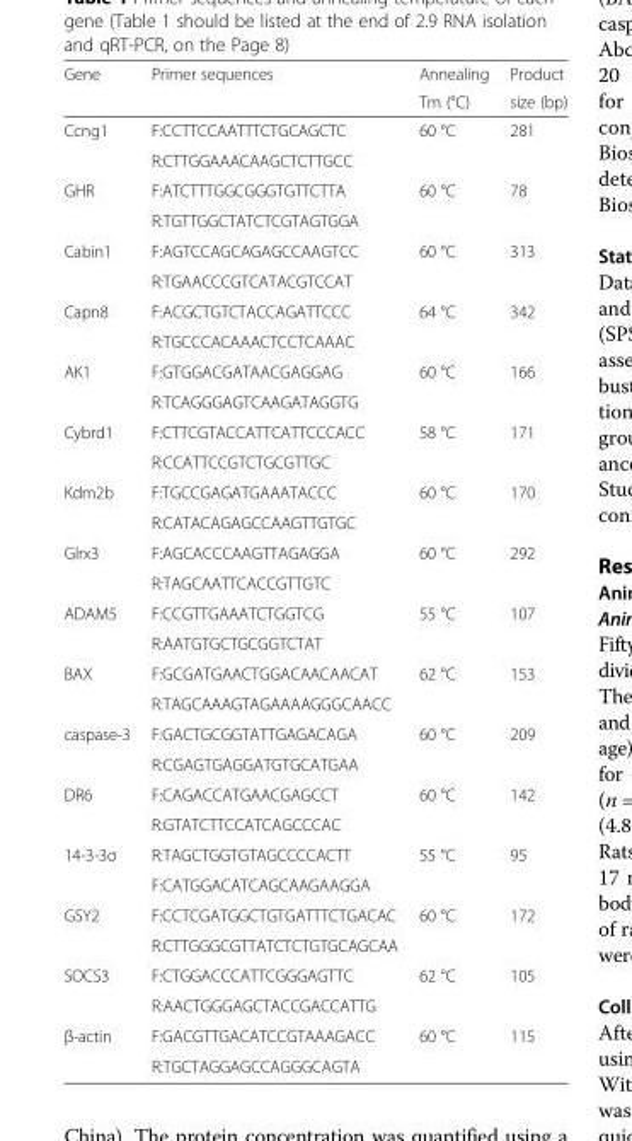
<table><thead><tr><td rowspan="2">Gene</td><td rowspan="2">Primer sequences</td><td rowspan="2">Annealing Tm (°C)</td><td rowspan="2">Product size (bp)</td></tr><tr></tr></thead><tbody><tr><td rowspan="2">Ccng1</td><td>F:CCTTCCAATTTCTGCAGCTC</td><td rowspan="2">60 °C</td><td rowspan="2">281</td></tr><tr><td>R:CTTGGAAACAAGCTCTTGCC</td></tr><tr><td rowspan="2">GHR</td><td>F:ATCTTTGGCGGGTGTTCTTA</td><td rowspan="2">60 °C</td><td rowspan="2">78</td></tr><tr><td>R:TGTTGGCTATCTCGTAGTGGA</td></tr><tr><td rowspan="2">Cabin1</td><td>F:AGTCCAGCAGAGCCAAGTCC</td><td rowspan="2">60 °C</td><td rowspan="2">313</td></tr><tr><td>R:TGAACCCGTCATACGTCCAT</td></tr><tr><td rowspan="2">Capn8</td><td>F:ACGCTGTCTACCAGATTCCC</td><td rowspan="2">64 °C</td><td rowspan="2">342</td></tr><tr><td>R:TGCCCACAAACTCCTCAAAC</td></tr><tr><td rowspan="2">AK1</td><td>F:GTGGACGATAACGAGGAG</td><td rowspan="2">60 °C</td><td rowspan="2">166</td></tr><tr><td>R:TCAGGGAGTCAAGATAGGTG</td></tr><tr><td rowspan="2">Cybrd1</td><td>F:CTTCGTACCATTCATTCCCACC</td><td rowspan="2">58 °C</td><td rowspan="2">171</td></tr><tr><td>R:CCATTCCGTCTGCGTTGC</td></tr><tr><td rowspan="2">Kdm2b</td><td>F:TGCCGAGATGAAATACCC</td><td rowspan="2">60 °C</td><td rowspan="2">170</td></tr><tr><td>R:CATACAGAGCCAAGTTGTGC</td></tr><tr><td rowspan="2">Glrx3</td><td>F:AGCACCCAAGTTAGAGGA</td><td rowspan="2">60 °C</td><td rowspan="2">292</td></tr><tr><td>R:TAGCAATTCACCGTTGTC</td></tr><tr><td rowspan="2">ADAM5</td><td>F:CCGTTGAAATCTGGTCG</td><td rowspan="2">55 °C</td><td rowspan="2">107</td></tr><tr><td>R:AATGTGCTGCGGTCTAT</td></tr><tr><td rowspan="2">BAX</td><td>F:GCGATGAACTGGACAACAACAT</td><td rowspan="2">62 °C</td><td rowspan="2">153</td></tr><tr><td>R:TAGCAAAGTAGAAAAGGGCAACC</td></tr><tr><td rowspan="2">caspase-3</td><td>F:GACTGCGGTATTGAGACAGA</td><td rowspan="2">60 °C</td><td rowspan="2">209</td></tr><tr><td>R:CGAGTGAGGATGTGCATGAA</td></tr><tr><td rowspan="2">DR6</td><td>F:CAGACCATGAACGAGCCT</td><td rowspan="2">60 °C</td><td rowspan="2">142</td></tr><tr><td>R:GTATCTTCCATCAGCCCAC</td></tr><tr><td rowspan="2">14-3-3σ</td><td>R:TAGCTGGTGTAGCCCCACTT</td><td rowspan="2">55 °C</td><td rowspan="2">95</td></tr><tr><td>F:CATGGACATCAGCAAGAAGGA</td></tr><tr><td rowspan="2">GSY2</td><td>F:CCTCGATGGCTGTGATTTCTGACAC</td><td rowspan="2">60 °C</td><td rowspan="2">172</td></tr><tr><td>R:CTTGGGCGTTATCTCTGTGCAGCAA</td></tr><tr><td rowspan="2">SOCS3</td><td>F:CTGGACCCATTCGGGAGTTC</td><td rowspan="2">62 °C</td><td rowspan="2">105</td></tr><tr><td>R:AACTGGGAGCTACCGACCATTG</td></tr><tr><td rowspan="2">β-actin</td><td>F:GACGTTGACATCCGTAAAGACC</td><td rowspan="2">60 °C</td><td rowspan="2">115</td></tr><tr><td>R:TGCTAGGAGCCAGGGCAGTA</td></tr></tbody></table>